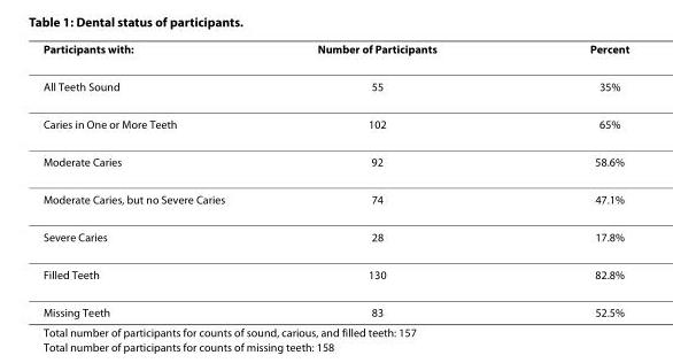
<table><thead><tr><td>Participants with:</td><td>Number of Participants</td><td>Percent</td></tr></thead><tbody><tr><td>All Teeth Sound</td><td>55</td><td>35%</td></tr><tr><td>Caries in One or More Teeth</td><td>102</td><td>65%</td></tr><tr><td>Moderate Caries</td><td>92</td><td>58.6%</td></tr><tr><td>Moderate Caries, but no Severe Caries</td><td>74</td><td>47.1%</td></tr><tr><td>Severe Caries</td><td>28</td><td>17.8%</td></tr><tr><td>Filled Teeth</td><td>130</td><td>82.8%</td></tr><tr><td>Missing Teeth</td><td>83</td><td>52.5%</td></tr></tbody></table>